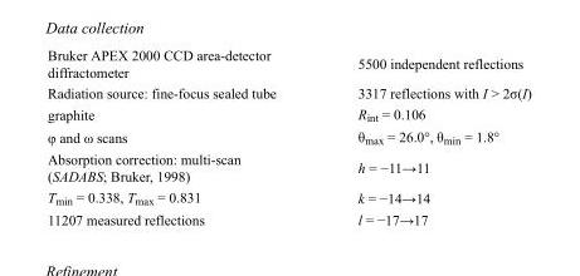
<table><tbody><tr><td>Bruker APEX 2000 CCD area-detector diffractometer</td><td>5500 independent reflections</td></tr><tr><td>Radiation source: fine-focus sealed tube</td><td>3317 reflections with I &gt; 2σ(I)</td></tr><tr><td>graphite</td><td>R<sub>int</sub> = 0.106</td></tr><tr><td>φ and ω scans</td><td>θ<sub>max</sub> = 26.0°, θ<sub>min</sub> = 1.8°</td></tr><tr><td>Absorption correction: multi-scan (SADABS; Bruker, 1998)</td><td>h = −11→11</td></tr><tr><td>T<sub>min</sub> = 0.338, T<sub>max</sub> = 0.831</td><td>k = −14→14</td></tr><tr><td>11207 measured reflections</td><td>l = −17→17</td></tr></tbody></table>